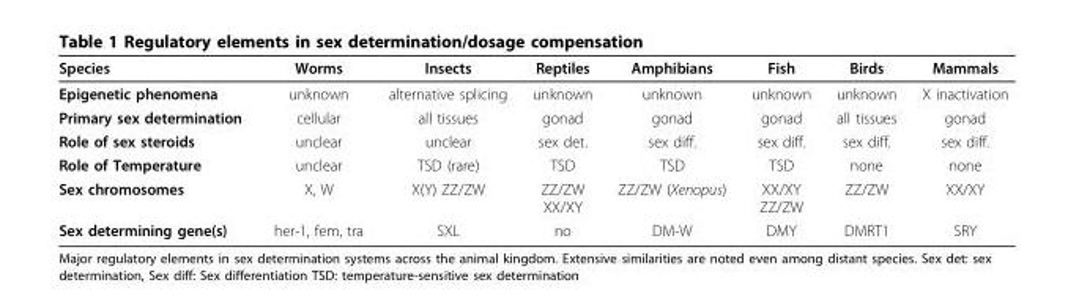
<table><thead><tr><td>Species</td><td>Worms</td><td>Insects</td><td>Reptiles</td><td>Amphibians</td><td>Fish</td><td>Birds</td><td>Mammals</td></tr></thead><tbody><tr><td>Epigenetic phenomena</td><td>unknown</td><td>alternative splicing</td><td>unknown</td><td>unknown</td><td>unknown</td><td>unknown</td><td>X inactivation</td></tr><tr><td>Primary sex determination</td><td>cellular</td><td>all tissues</td><td>gonad</td><td>gonad</td><td>gonad</td><td>all tissues</td><td>gonad</td></tr><tr><td>Role of sex steroids</td><td>unclear</td><td>unclear</td><td>sex det.</td><td>sex diff.</td><td>sex diff.</td><td>sex diff.</td><td>sex diff.</td></tr><tr><td>Role of Temperature</td><td>unclear</td><td>TSD (rare)</td><td>TSD</td><td>TSD</td><td>TSD</td><td>none</td><td>none</td></tr><tr><td>Sex chromosomes</td><td>X, W</td><td>X(Y) ZZ/ZW</td><td>ZZ/ZW XX/XY</td><td>ZZ/ZW (Xenopus)</td><td>XX/XY ZZ/ZW</td><td>ZZ/ZW</td><td>XX/XY</td></tr><tr><td>Sex determining gene(s)</td><td>her-1, fem, tra</td><td>SXL</td><td>no</td><td>DM-W</td><td>DMY</td><td>DMRT1</td><td>SRY</td></tr></tbody></table>